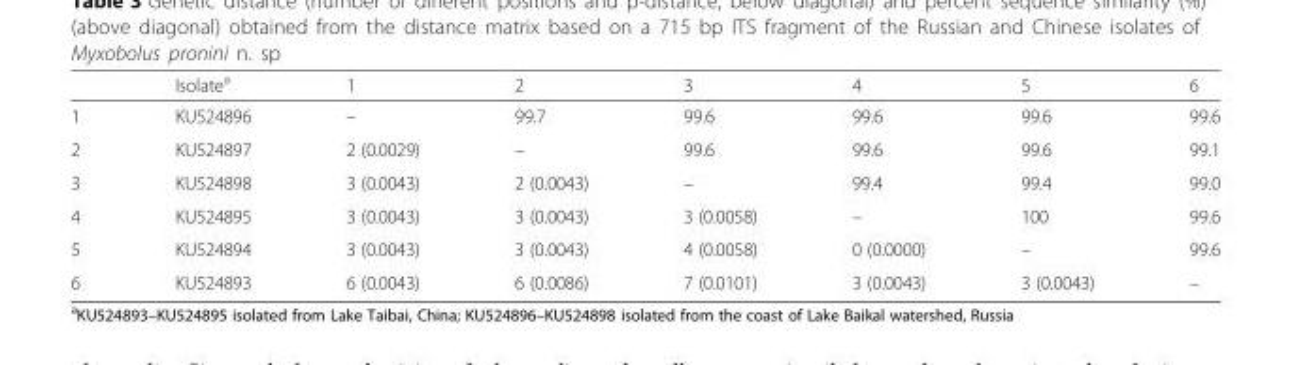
<table><thead><tr><td></td><td>Isolate<sup>a</sup></td><td>1</td><td>2</td><td>3</td><td>4</td><td>5</td><td>6</td></tr></thead><tbody><tr><td>1</td><td>KU524896</td><td>–</td><td>99.7</td><td>99.6</td><td>99.6</td><td>99.6</td><td>99.6</td></tr><tr><td>2</td><td>KU524897</td><td>2 (0.0029)</td><td>–</td><td>99.6</td><td>99.6</td><td>99.6</td><td>99.1</td></tr><tr><td>3</td><td>KU524898</td><td>3 (0.0043)</td><td>2 (0.0043)</td><td>–</td><td>99.4</td><td>99.4</td><td>99.0</td></tr><tr><td>4</td><td>KU524895</td><td>3 (0.0043)</td><td>3 (0.0043)</td><td>3 (0.0058)</td><td>–</td><td>100</td><td>99.6</td></tr><tr><td>5</td><td>KU524894</td><td>3 (0.0043)</td><td>3 (0.0043)</td><td>4 (0.0058)</td><td>0 (0.0000)</td><td>–</td><td>99.6</td></tr><tr><td>6</td><td>KU524893</td><td>6 (0.0043)</td><td>6 (0.0086)</td><td>7 (0.0101)</td><td>3 (0.0043)</td><td>3 (0.0043)</td><td>–</td></tr></tbody></table>